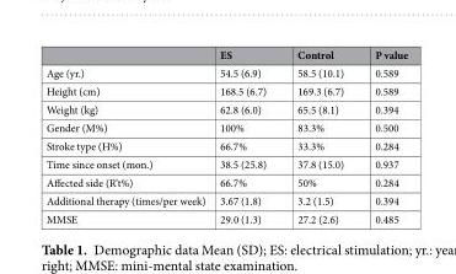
<table><thead><tr><td></td><td>ES</td><td>Control</td><td>P value</td></tr></thead><tbody><tr><td>Age (yr.)</td><td>54.5 (6.9)</td><td>58.5 (10.1)</td><td>0.589</td></tr><tr><td>Height (cm)</td><td>168.5 (6.7)</td><td>169.3 (6.7)</td><td>0.589</td></tr><tr><td>Weight (kg)</td><td>62.8 (6.0)</td><td>65.5 (8.1)</td><td>0.394</td></tr><tr><td>Gender (M%)</td><td>100%</td><td>83.3%</td><td>0.500</td></tr><tr><td>Stroke type (H%)</td><td>66.7%</td><td>33.3%</td><td>0.284</td></tr><tr><td>Time since onset (mon.)</td><td>38.5 (25.8)</td><td>37.8 (15.0)</td><td>0.937</td></tr><tr><td>Affected side (R’t%)</td><td>66.7%</td><td>50%</td><td>0.284</td></tr><tr><td>Additional therapy (times/per week)</td><td>3.67 (1.8)</td><td>3.2 (1.5)</td><td>0.394</td></tr><tr><td>MMSE</td><td>29.0 (1.3)</td><td>27.2 (2.6)</td><td>0.485</td></tr></tbody></table>